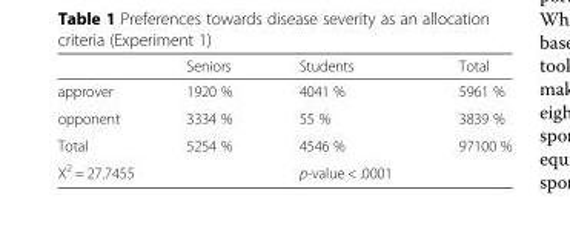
<table><thead><tr><td></td><td>Seniors</td><td>Students</td><td>Total</td></tr></thead><tbody><tr><td>approver</td><td>1920 %</td><td>4041 %</td><td>5961 %</td></tr><tr><td>opponent</td><td>3334 %</td><td>55 %</td><td>3839 %</td></tr><tr><td>Total</td><td>5254 %</td><td>4546 %</td><td>97100 %</td></tr><tr><td colspan="2">X<sup>2</sup> = 27.7455</td><td>p-value &lt; .0001</td><td></td></tr></tbody></table>